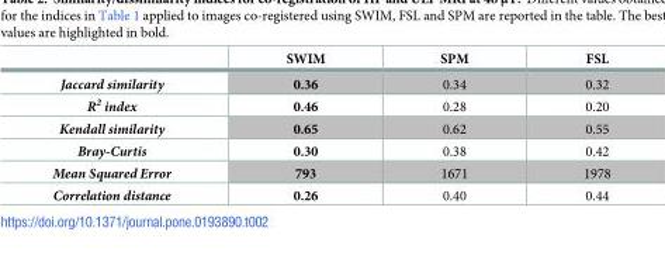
<table><thead><tr><td></td><td>SWIM</td><td>SPM</td><td>FSL</td></tr></thead><tbody><tr><td>Jaccard similarity</td><td>0.36</td><td>0.34</td><td>0.32</td></tr><tr><td>R<sup>2</sup> index</td><td>0.46</td><td>0.28</td><td>0.20</td></tr><tr><td>Kendall similarity</td><td>0.65</td><td>0.62</td><td>0.55</td></tr><tr><td>Bray-Curtis</td><td>0.30</td><td>0.38</td><td>0.42</td></tr><tr><td>Mean Squared Error</td><td>793</td><td>1671</td><td>1978</td></tr><tr><td>Correlation distance</td><td>0.26</td><td>0.40</td><td>0.44</td></tr></tbody></table>